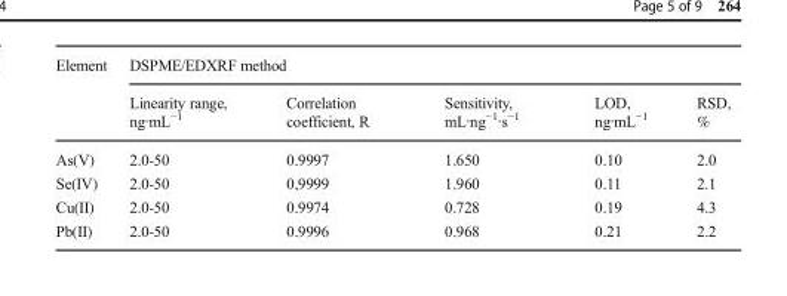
<table><thead><tr><td rowspan="2">Element</td><td colspan="5">DSPME/EDXRF method</td></tr><tr><td>Linearity range, ng∙mL<sup>−1</sup></td><td>Correlation coefficient, R</td><td>Sensitivity, mL∙ng<sup>−1</sup>∙s<sup>−1</sup></td><td>LOD, ng∙mL<sup>−1</sup></td><td>RSD, %</td></tr></thead><tbody><tr><td>As(V)</td><td>2.0-50</td><td>0.9997</td><td>1.650</td><td>0.10</td><td>2.0</td></tr><tr><td>Se(IV)</td><td>2.0-50</td><td>0,9999</td><td>1.960</td><td>0.11</td><td>2.1</td></tr><tr><td>Cu(II)</td><td>2.0-50</td><td>0.9974</td><td>0.728</td><td>0.19</td><td>4.3</td></tr><tr><td>Pb(II)</td><td>2.0-50</td><td>0.9996</td><td>0.968</td><td>0.21</td><td>2.2</td></tr></tbody></table>